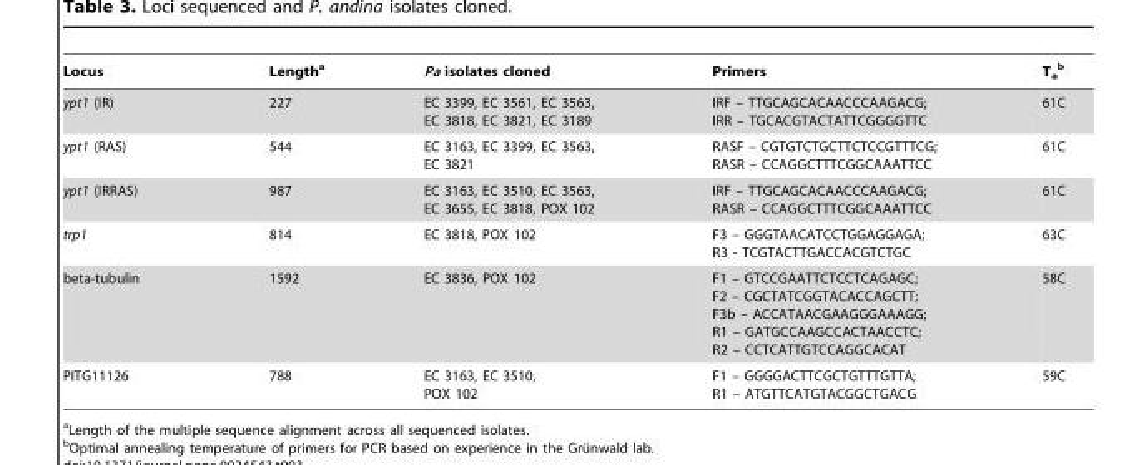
<table><thead><tr><td>Locus</td><td>Length<sup>a</sup></td><td>Pa isolates cloned</td><td>Primers</td><td>T<sub>a</sub> b</td></tr></thead><tbody><tr><td>ypt1 (IR)</td><td>227</td><td>EC 3399, EC 3561, EC 3563, EC 3818, EC 3821, EC 3189</td><td>IRF – TTGCAGCACAACCCAAGACG; IRR – TGCACGTACTATTCGGGGTTC</td><td>61C</td></tr><tr><td>ypt1 (RAS)</td><td>544</td><td>EC 3163, EC 3399, EC 3563, EC 3821</td><td>RASF – CGTGTCTGCTTCTCCGTTTCG; RASR – CCAGGCTTTCGGCAAATTCC</td><td>61C</td></tr><tr><td>ypt1 (IRRAS)</td><td>987</td><td>EC 3163, EC 3510, EC 3563, EC 3655, EC 3818, POX 102</td><td>IRF – TTGCAGCACAACCCAAGACG; RASR – CCAGGCTTTCGGCAAATTCC</td><td>61C</td></tr><tr><td>trp1</td><td>814</td><td>EC 3818, POX 102</td><td>F3 – GGGTAACATCCTGGAGGAGA; R3 - TCGTACTTGACCACGTCTGC</td><td>63C</td></tr><tr><td>beta-tubulin</td><td>1592</td><td>EC 3836, POX 102</td><td>F1 – GTCCGAATTCTCCTCAGAGC; F2 – CGCTATCGGTACACCAGCTT; F3b – ACCATAACGAAGGGAAAGG; R1 – GATGCCAAGCCACTAACCTC; R2 – CCTCATTGTCCAGGCACAT</td><td>58C</td></tr><tr><td>PITG11126</td><td>788</td><td>EC 3163, EC 3510, POX 102</td><td>F1 – GGGGACTTCGCTGTTTGTTA; R1 – ATGTTCATGTACGGCTGACG</td><td>59C</td></tr></tbody></table>